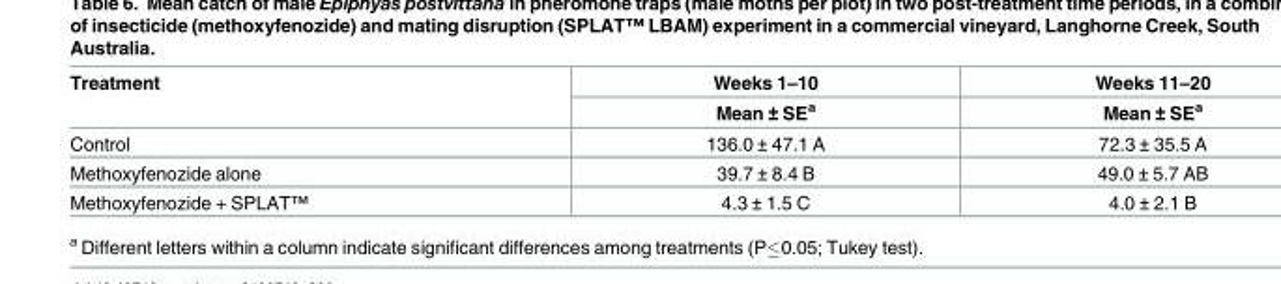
<table><thead><tr><td rowspan="2">Treatment</td><td rowspan="2">Weeks 1–10 Mean ± SE<sup>a</sup></td><td rowspan="2">Weeks 11–20 Mean ± SE<sup>a</sup></td></tr><tr></tr></thead><tbody><tr><td>Control</td><td>136.0 ± 47.1 A</td><td>72.3 ± 35.5 A</td></tr><tr><td>Methoxyfenozide alone</td><td>39.7 ± 8.4 B</td><td>49.0 ± 5.7 AB</td></tr><tr><td>Methoxyfenozide + SPLAT<sup>™</sup></td><td>4.3 ± 1.5 C</td><td>4.0 ± 2.1 B</td></tr></tbody></table>